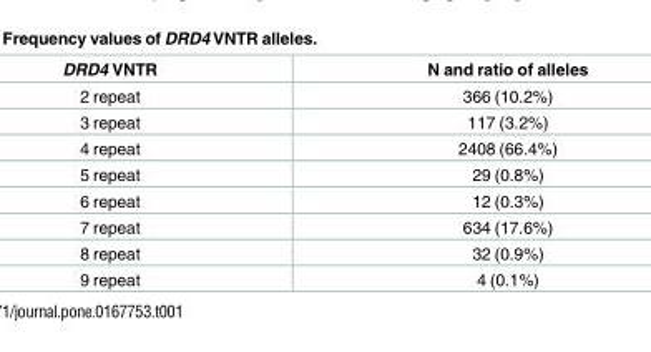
<table><thead><tr><td>DRD4 VNTR</td><td>N and ratio of alleles</td></tr></thead><tbody><tr><td>2 repeat</td><td>366 (10.2%)</td></tr><tr><td>3 repeat</td><td>117 (3.2%)</td></tr><tr><td>4 repeat</td><td>2408 (66.4%)</td></tr><tr><td>5 repeat</td><td>29 (0.8%)</td></tr><tr><td>6 repeat</td><td>12 (0.3%)</td></tr><tr><td>7 repeat</td><td>634 (17.6%)</td></tr><tr><td>8 repeat</td><td>32 (0.9%)</td></tr><tr><td>9 repeat</td><td>4 (0.1%)</td></tr></tbody></table>